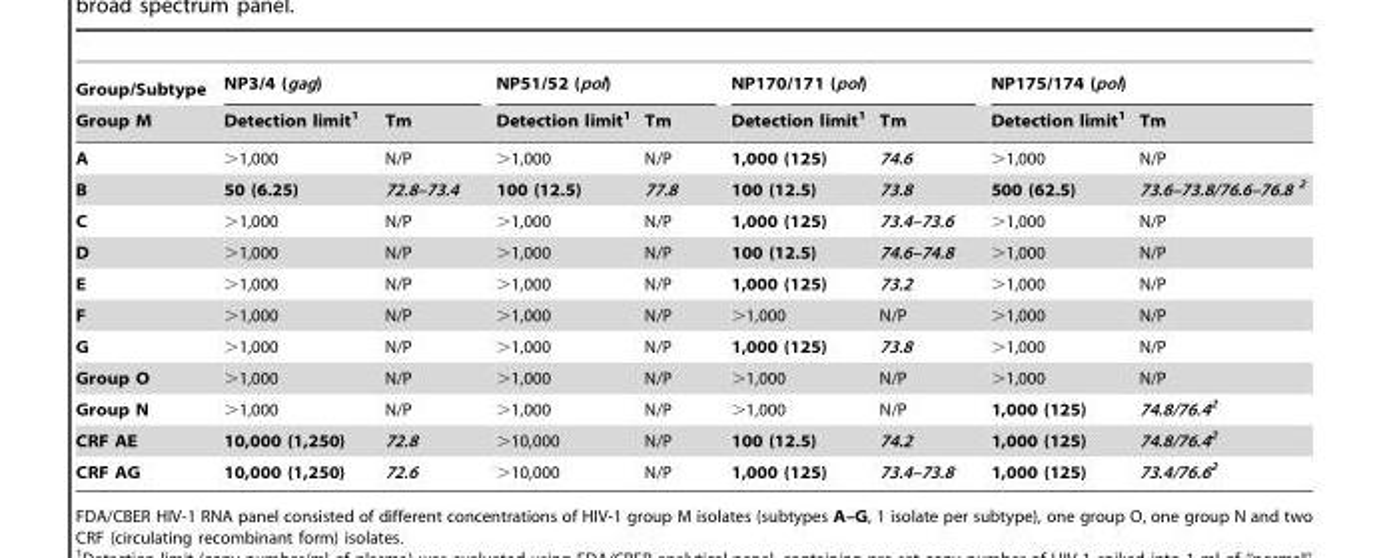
<table><thead><tr><td rowspan="2">Group/Subtype Group M</td><td colspan="2">NP3/4 (gag)</td><td colspan="2">NP51/52 (pol)</td><td colspan="2">NP170/171 (pol)</td><td colspan="2">NP175/174 (pol)</td></tr><tr><td>Detection limit<sup>1</sup></td><td>Tm</td><td>Detection limit<sup>1</sup></td><td>Tm</td><td>Detection limit<sup>1</sup></td><td>Tm</td><td>Detection limit<sup>1</sup></td><td>Tm</td></tr></thead><tbody><tr><td>A</td><td>&gt;1,000</td><td>N/P</td><td>&gt;1,000</td><td>N/P</td><td>1,000 (125)</td><td>74.6</td><td>&gt;1,000</td><td>N/P</td></tr><tr><td>B</td><td>50 (6.25)</td><td>72.8–73.4</td><td>100 (12.5)</td><td>77.8</td><td>100 (12.5)</td><td>73.8</td><td>500 (62.5)</td><td>73.6–73.8/76.6–76.8 2</td></tr><tr><td>C</td><td>&gt;1,000</td><td>N/P</td><td>&gt;1,000</td><td>N/P</td><td>1,000 (125)</td><td>73.4–73.6</td><td>&gt;1,000</td><td>N/P</td></tr><tr><td>D</td><td>&gt;1,000</td><td>N/P</td><td>&gt;1,000</td><td>N/P</td><td>100 (12.5)</td><td>74.6–74.8</td><td>&gt;1,000</td><td>N/P</td></tr><tr><td>E</td><td>&gt;1,000</td><td>N/P</td><td>&gt;1,000</td><td>N/P</td><td>1,000 (125)</td><td>73.2</td><td>&gt;1,000</td><td>N/P</td></tr><tr><td>F</td><td>&gt;1,000</td><td>N/P</td><td>&gt;1,000</td><td>N/P</td><td>&gt;1,000</td><td>N/P</td><td>&gt;1,000</td><td>N/P</td></tr><tr><td>G</td><td>&gt;1,000</td><td>N/P</td><td>&gt;1,000</td><td>N/P</td><td>1,000 (125)</td><td>73.8</td><td>&gt;1,000</td><td>N/P</td></tr><tr><td>Group O</td><td>&gt;1,000</td><td>N/P</td><td>&gt;1,000</td><td>N/P</td><td>&gt;1,000</td><td>N/P</td><td>&gt;1,000</td><td>N/P</td></tr><tr><td>Group N</td><td>&gt;1,000</td><td>N/P</td><td>&gt;1,000</td><td>N/P</td><td>&gt;1,000</td><td>N/P</td><td>1,000 (125)</td><td>74.8/76.42</td></tr><tr><td>CRF AE</td><td>10,000 (1,250)</td><td>72.8</td><td>&gt;10,000</td><td>N/P</td><td>100 (12.5)</td><td>74.2</td><td>1,000 (125)</td><td>74.8/76.42</td></tr><tr><td>CRF AG</td><td>10,000 (1,250)</td><td>72.6</td><td>&gt;10,000</td><td>N/P</td><td>1,000 (125)</td><td>73.4–73.8</td><td>1,000 (125)</td><td>73.4/76.62</td></tr></tbody></table>